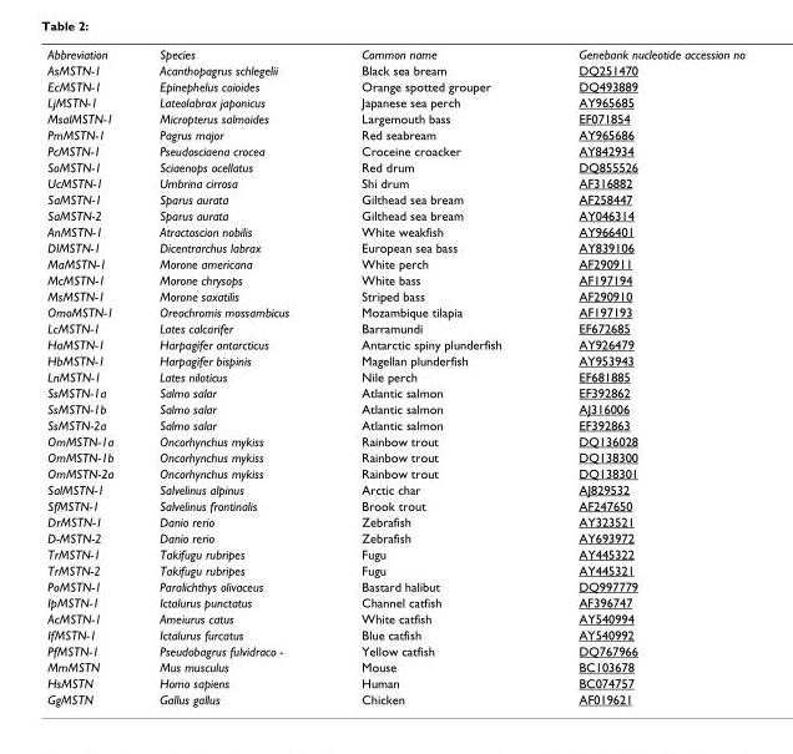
<table><tbody><tr><td>Abbreviation</td><td>Species</td><td>Common name</td><td>Genebank nucleotide accession no</td></tr><tr><td>AsMSTN-1</td><td>Acanthopagrus schlegelii</td><td>Black sea bream</td><td>DQ251470</td></tr><tr><td>EcMSTN-1</td><td>Epinephelus coioides</td><td>Orange spotted grouper</td><td>DQ493889</td></tr><tr><td>LjMSTN-1</td><td>Lateolabrax japonicus</td><td>Japanese sea perch</td><td>AY965685</td></tr><tr><td>MsalMSTN-1</td><td>Micropterus salmoides</td><td>Largemouth bass</td><td>EF071854</td></tr><tr><td>PmMSTN-1</td><td>Pagrus major</td><td>Red seabream</td><td>AY965686</td></tr><tr><td>PcMSTN-1</td><td>Pseudosciaena crocea</td><td>Croceine croacker</td><td>AY842934</td></tr><tr><td>SoMSTN-1</td><td>Sciaenops ocellatus</td><td>Red drum</td><td>DQ855526</td></tr><tr><td>UcMSTN-1</td><td>Umbrina cirrosa</td><td>Shi drum</td><td>AF316882</td></tr><tr><td>SaMSTN-1</td><td>Sparus aurata</td><td>Gilthead sea bream</td><td>AF258447</td></tr><tr><td>SaMSTN-2</td><td>Sparus aurata</td><td>Gilthead sea bream</td><td>AY046314</td></tr><tr><td>AnMSTN-1</td><td>Atractoscion nobilis</td><td>White weakfish</td><td>AY966401</td></tr><tr><td>DlMSTN-1</td><td>Dicentrarchus labrax</td><td>European sea bass</td><td>AY839106</td></tr><tr><td>MaMSTN-1</td><td>Morone americana</td><td>White perch</td><td>AF290911</td></tr><tr><td>McMSTN-1</td><td>Morone chrysops</td><td>White bass</td><td>AF197194</td></tr><tr><td>MsMSTN-1</td><td>Morone saxatilis</td><td>Striped bass</td><td>AF290910</td></tr><tr><td>OmoMSTN-1</td><td>Oreochromis mossambicus</td><td>Mozambique tilapia</td><td>AF197193</td></tr><tr><td>LcMSTN-1</td><td>Lates calcarifer</td><td>Barramundi</td><td>EF672685</td></tr><tr><td>HaMSTN-1</td><td>Harpagifer antarcticus</td><td>Antarctic spiny plunderfish</td><td>AY926479</td></tr><tr><td>HbMSTN-1</td><td>Harpagifer bispinis</td><td>Magellan plunderfish</td><td>AY953943</td></tr><tr><td>LnMSTN-1</td><td>Lates niloticus</td><td>Nile perch</td><td>EF681885</td></tr><tr><td>SsMSTN-1a</td><td>Salmo salar</td><td>Atlantic salmon</td><td>EF392862</td></tr><tr><td>SsMSTN-1b</td><td>Salmo salar</td><td>Atlantic salmon</td><td>AJ316006</td></tr><tr><td>SsMSTN-2a</td><td>Salmo salar</td><td>Atlantic salmon</td><td>EF392863</td></tr><tr><td>OmMSTN-1a</td><td>Oncorhynchus mykiss</td><td>Rainbow trout</td><td>DQ136028</td></tr><tr><td>OmMSTN-1b</td><td>Oncorhynchus mykiss</td><td>Rainbow trout</td><td>DQ138300</td></tr><tr><td>OmMSTN-2a</td><td>Oncorhynchus mykiss</td><td>Rainbow trout</td><td>DQ138301</td></tr><tr><td>SalMSTN-1</td><td>Salvelinus alpinus</td><td>Arctic char</td><td>AJ829532</td></tr><tr><td>SfMSTN-1</td><td>Salvelinus frontinalis</td><td>Brook trout</td><td>AF247650</td></tr><tr><td>DrMSTN-1</td><td>Danio rerio</td><td>Zebrafish</td><td>AY323521</td></tr><tr><td>D-MSTN-2</td><td>Danio rerio</td><td>Zebrafish</td><td>AY693972</td></tr><tr><td>TrMSTN-1</td><td>Takifugu rubripes</td><td>Fugu</td><td>AY445322</td></tr><tr><td>TrMSTN-2</td><td>Takifugu rubripes</td><td>Fugu</td><td>AY445321</td></tr><tr><td>PoMSTN-1</td><td>Paralichthys olivaceus</td><td>Bastard halibut</td><td>DQ997779</td></tr><tr><td>IpMSTN-1</td><td>Ictalurus punctatus</td><td>Channel catfish</td><td>AF396747</td></tr><tr><td>AcMSTN-1</td><td>Ameiurus catus</td><td>White catfish</td><td>AY540994</td></tr><tr><td>IfMSTN-1</td><td>Ictalurus furcatus</td><td>Blue catfish</td><td>AY540992</td></tr><tr><td>PfMSTN-1</td><td>Pseudobagrus fulvidraco -</td><td>Yellow catfish</td><td>DQ767966</td></tr><tr><td>MmMSTN</td><td>Mus musculus</td><td>Mouse</td><td>BC103678</td></tr><tr><td>HsMSTN</td><td>Homo sapiens</td><td>Human</td><td>BC074757</td></tr><tr><td>GgMSTN</td><td>Gallus gallus</td><td>Chicken</td><td>AF019621</td></tr></tbody></table>